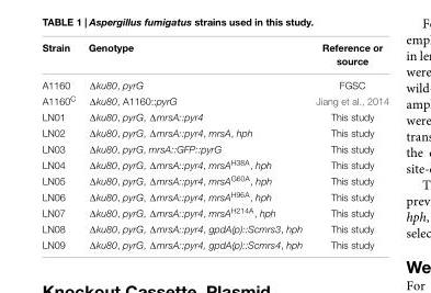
<table><thead><tr><td>Strain</td><td>Genotype</td><td>Reference or source</td></tr></thead><tbody><tr><td>A1160</td><td>Δku80, pyrG</td><td>FGSC</td></tr><tr><td>A1160<sup>C</sup></td><td>Δku80, A1160::pyrG</td><td>Jiang et al., 2014</td></tr><tr><td>LN01</td><td>Δku80, pyrG, ΔmrsA::pyr4</td><td>This study</td></tr><tr><td>LN02</td><td>Δku80, pyrG, ΔmrsA::pyr4, mrsA, hph</td><td>This study</td></tr><tr><td>LN03</td><td>Δku80, pyrG, mrsA::GFP::pyrG</td><td>This study</td></tr><tr><td>LN04</td><td>Δku80, pyrG, ΔmrsA::pyr4, mrsA<sup>H38A</sup>, hph</td><td>This study</td></tr><tr><td>LN05</td><td>Δku80, pyrG, ΔmrsA::pyr4, mrsA<sup>G60A</sup>, hph</td><td>This study</td></tr><tr><td>LN06</td><td>Δku80, pyrG, ΔmrsA::pyr4, mrsA<sup>H96A</sup>, hph</td><td>This study</td></tr><tr><td>LN07</td><td>Δku80, pyrG, ΔmrsA::pyr4, mrsA<sup>H214A</sup>, hph</td><td>This study</td></tr><tr><td>LN08</td><td>Δku80, pyrG, ΔmrsA::pyr4, gpdA(p)::Scmrs3, hph</td><td>This study</td></tr><tr><td>LN09</td><td>Δku80, pyrG, ΔmrsA::pyr4, gpdA(p)::Scmrs4, hph</td><td>This study</td></tr></tbody></table>